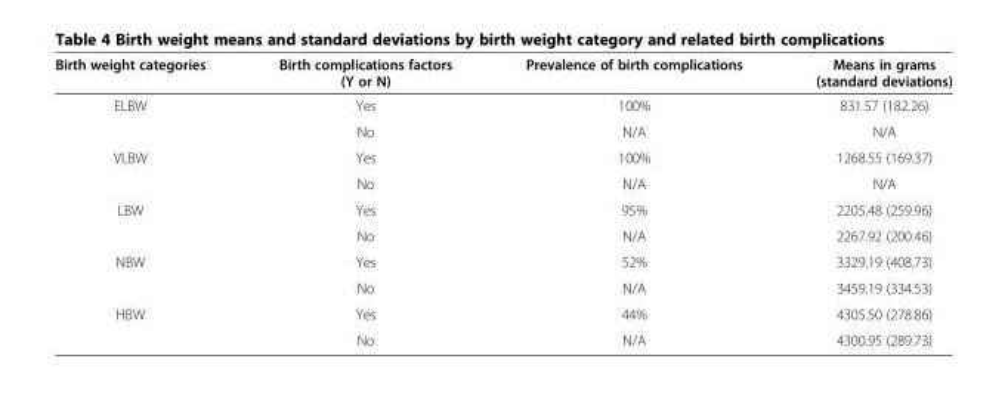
<table><thead><tr><td>Birth weight categories</td><td>Birth complications factors (Y or N)</td><td>Prevalence of birth complications</td><td>Means in grams (standard deviations)</td></tr></thead><tbody><tr><td rowspan="2">ELBW</td><td>Yes</td><td>100%</td><td>831.57 (182.26)</td></tr><tr><td>No</td><td>N/A</td><td>N/A</td></tr><tr><td rowspan="2">VLBW</td><td>Yes</td><td>100%</td><td>1268.55 (169.37)</td></tr><tr><td>No</td><td>N/A</td><td>N/A</td></tr><tr><td rowspan="2">LBW</td><td>Yes</td><td>95%</td><td>2205.48 (259.96)</td></tr><tr><td>No</td><td>N/A</td><td>2267.92 (200.46)</td></tr><tr><td rowspan="2">NBW</td><td>Yes</td><td>52%</td><td>3329.19 (408.73)</td></tr><tr><td>No</td><td>N/A</td><td>3459.19 (334.53)</td></tr><tr><td rowspan="2">HBW</td><td>Yes</td><td>44%</td><td>4305.50 (278.86)</td></tr><tr><td>No</td><td>N/A</td><td>4300.95 (289.73)</td></tr></tbody></table>